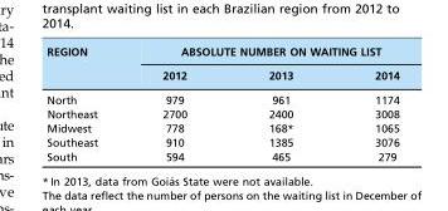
<table><thead><tr><td rowspan="2">REGION</td><td colspan="3">ABSOLUTE NUMBER ON WAITING LIST</td></tr><tr><td>2012</td><td>2013</td><td>2014</td></tr></thead><tbody><tr><td>North</td><td>979</td><td>961</td><td>1174</td></tr><tr><td>Northeast</td><td>2700</td><td>2400</td><td>3008</td></tr><tr><td>Midwest</td><td>778</td><td>168*</td><td>1065</td></tr><tr><td>Southeast</td><td>910</td><td>1385</td><td>3076</td></tr><tr><td>South</td><td>594</td><td>465</td><td>279</td></tr></tbody></table>